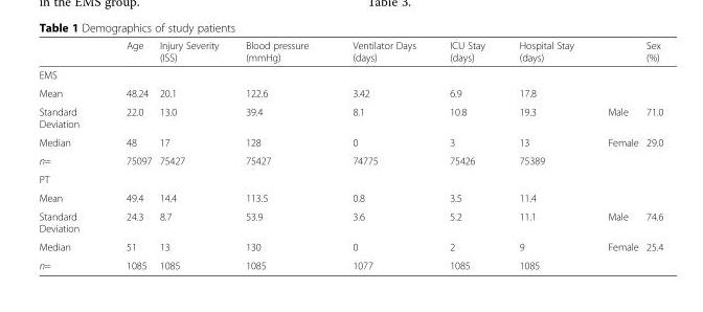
<table><thead><tr><td></td><td>Age</td><td>Injury Severity (ISS)</td><td>Blood pressure (mmHg)</td><td>Ventilator Days (days)</td><td>ICU Stay (days)</td><td>Hospital Stay (days)</td><td></td><td>Sex (%)</td></tr></thead><tbody><tr><td colspan="9">EMS</td></tr><tr><td>Mean</td><td>48.24</td><td>20.1</td><td>122.6</td><td>3.42</td><td>6.9</td><td>17.8</td><td></td><td></td></tr><tr><td>Standard Deviation</td><td>22.0</td><td>13.0</td><td>39.4</td><td>8.1</td><td>10.8</td><td>19.3</td><td>Male</td><td>71.0</td></tr><tr><td>Median</td><td>48</td><td>17</td><td>128</td><td>0</td><td>3</td><td>13</td><td>Female</td><td>29.0</td></tr><tr><td>n=</td><td>75097</td><td>75427</td><td>75427</td><td>74775</td><td>75426</td><td>75389</td><td></td><td></td></tr><tr><td colspan="9">PT</td></tr><tr><td>Mean</td><td>49.4</td><td>14.4</td><td>113.5</td><td>0.8</td><td>3.5</td><td>11.4</td><td></td><td></td></tr><tr><td>Standard Deviation</td><td>24.3</td><td>8.7</td><td>53.9</td><td>3.6</td><td>5.2</td><td>11.1</td><td>Male</td><td>74.6</td></tr><tr><td>Median</td><td>51</td><td>13</td><td>130</td><td>0</td><td>2</td><td>9</td><td>Female</td><td>25.4</td></tr><tr><td>n=</td><td>1085</td><td>1085</td><td>1085</td><td>1077</td><td>1085</td><td>1085</td><td></td><td></td></tr></tbody></table>